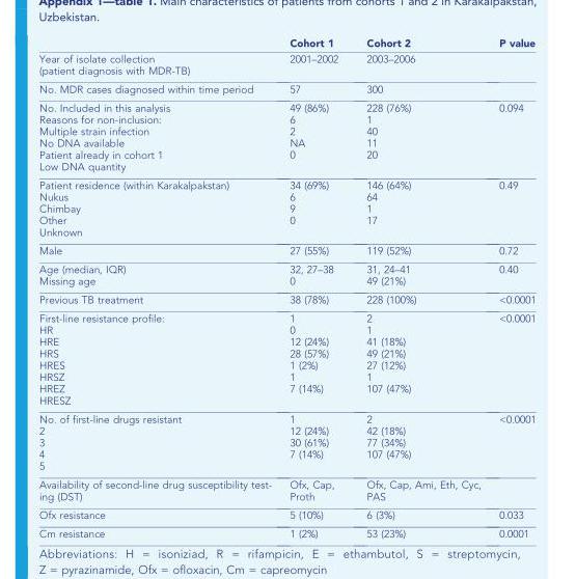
<table><thead><tr><td></td><td>Cohort 1</td><td>Cohort 2</td><td>P value</td></tr></thead><tbody><tr><td>Year of isolate collection (patient diagnosis with MDR-TB)</td><td>2001–2002</td><td>2003–2006</td><td></td></tr><tr><td>No. MDR cases diagnosed within time period</td><td>57</td><td>300</td><td></td></tr><tr><td>No. Included in this analysis Reasons for non-inclusion: Multiple strain infection No DNA available Patient already in cohort 1 Low DNA quantity</td><td>49 (86%) 6 2 NA 0</td><td>228 (76%) 1 40 11 20</td><td>0.094</td></tr><tr><td>Patient residence (within Karakalpakstan) Nukus Chimbay Other Unknown</td><td>34 (69%) 6 9 0</td><td>146 (64%) 64 1 17</td><td>0.49</td></tr><tr><td>Male</td><td>27 (55%)</td><td>119 (52%)</td><td>0.72</td></tr><tr><td>Age (median, IQR) Missing age</td><td>32, 27–38 0</td><td>31, 24–41 49 (21%)</td><td>0.40</td></tr><tr><td>Previous TB treatment</td><td>38 (78%)</td><td>228 (100%)</td><td>&lt;0.0001</td></tr><tr><td>First-line resistance profile: HR HRE HRS HRES HRSZ HREZ HRESZ</td><td>1 0 12 (24%) 28 (57%) 1 (2%) 1 7 (14%)</td><td>2 1 41 (18%) 49 (21%) 27 (12%) 1 107 (47%)</td><td>&lt;0.0001</td></tr><tr><td>No. of first-line drugs resistant 2 3 4 5</td><td>1 12 (24%) 30 (61%) 7 (14%)</td><td>2 42 (18%) 77 (34%) 107 (47%)</td><td>&lt;0.0001</td></tr><tr><td>Availability of second-line drug susceptibility test- ing (DST)</td><td>Ofx, Cap, Proth</td><td>Ofx, Cap, Ami, Eth, Cyc, PAS</td><td></td></tr><tr><td>Ofx resistance</td><td>5 (10%)</td><td>6 (3%)</td><td>0.033</td></tr><tr><td>Cm resistance</td><td>1 (2%)</td><td>53 (23%)</td><td>0.0001</td></tr></tbody></table>